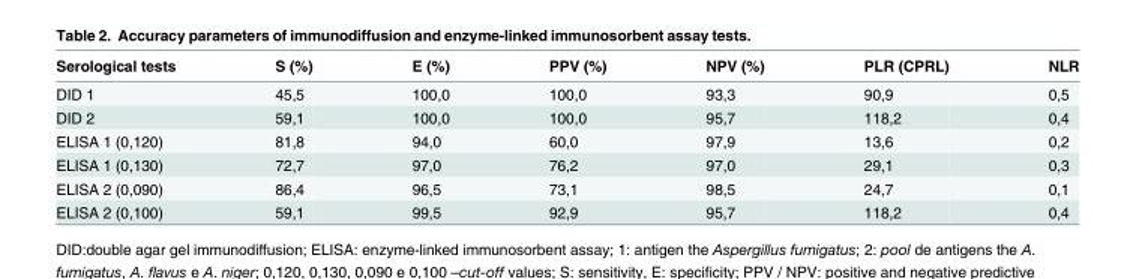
<table><thead><tr><td>Serological tests</td><td>S (%)</td><td>E (%)</td><td>PPV (%)</td><td>NPV (%)</td><td>PLR (CPRL)</td><td>NLR</td></tr></thead><tbody><tr><td>DID 1</td><td>45,5</td><td>100,0</td><td>100,0</td><td>93,3</td><td>90,9</td><td>0,5</td></tr><tr><td>DID 2</td><td>59,1</td><td>100,0</td><td>100,0</td><td>95,7</td><td>118,2</td><td>0,4</td></tr><tr><td>ELISA 1 (0,120)</td><td>81,8</td><td>94,0</td><td>60,0</td><td>97,9</td><td>13,6</td><td>0,2</td></tr><tr><td>ELISA 1 (0,130)</td><td>72,7</td><td>97,0</td><td>76,2</td><td>97,0</td><td>29,1</td><td>0,3</td></tr><tr><td>ELISA 2 (0,090)</td><td>86,4</td><td>96,5</td><td>73,1</td><td>98,5</td><td>24,7</td><td>0,1</td></tr><tr><td>ELISA 2 (0,100)</td><td>59,1</td><td>99,5</td><td>92,9</td><td>95,7</td><td>118,2</td><td>0,4</td></tr></tbody></table>